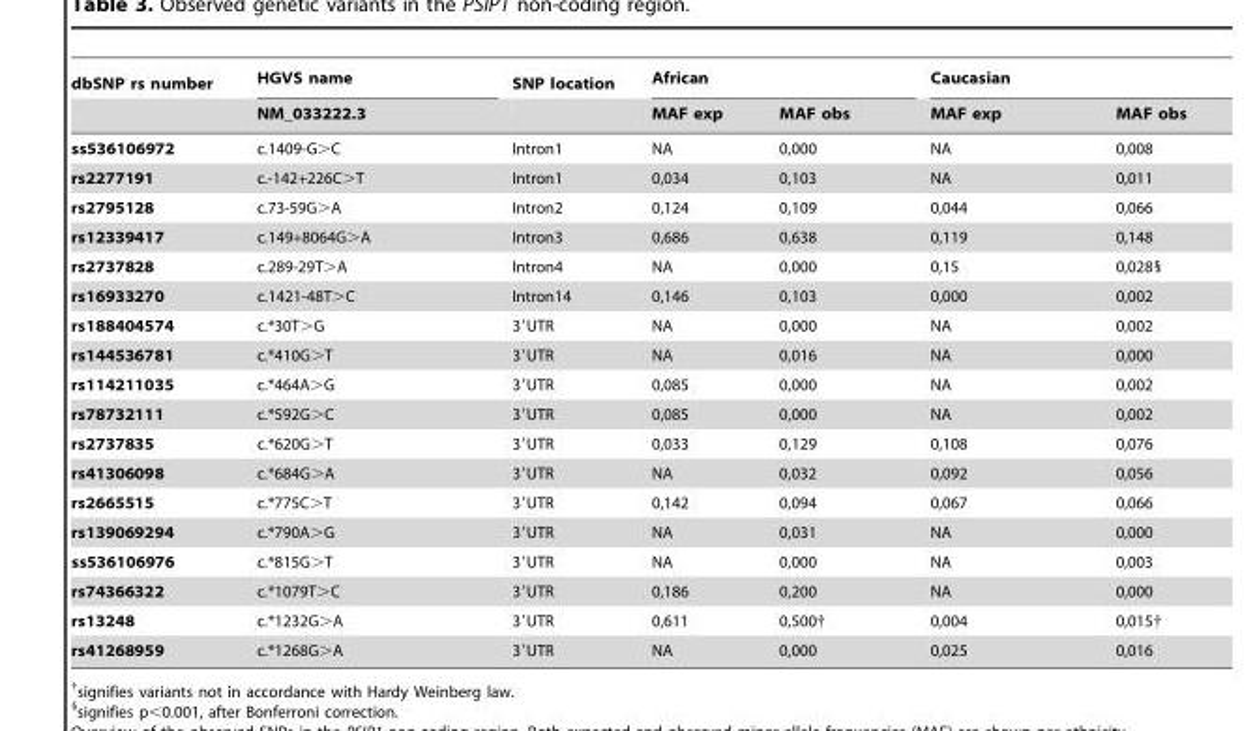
<table><thead><tr><td rowspan="2">dbSNP rs number</td><td rowspan="2">HGVS name NM_033222.3</td><td rowspan="2">SNP location</td><td colspan="2">African</td><td colspan="2">Caucasian</td></tr><tr><td>MAF exp</td><td>MAF obs</td><td>MAF exp</td><td>MAF obs</td></tr></thead><tbody><tr><td>ss536106972</td><td>c.1409-G&gt;C</td><td>Intron1</td><td>NA</td><td>0,000</td><td>NA</td><td>0,008</td></tr><tr><td>rs2277191</td><td>c.-142+226C&gt;T</td><td>Intron1</td><td>0,034</td><td>0,103</td><td>NA</td><td>0,011</td></tr><tr><td>rs2795128</td><td>c.73-59G&gt;A</td><td>Intron2</td><td>0,124</td><td>0,109</td><td>0,044</td><td>0,066</td></tr><tr><td>rs12339417</td><td>c.149+8064G&gt;A</td><td>Intron3</td><td>0,686</td><td>0,638</td><td>0,119</td><td>0,148</td></tr><tr><td>rs2737828</td><td>c.289-29T&gt;A</td><td>Intron4</td><td>NA</td><td>0,000</td><td>0,15</td><td>0,028§</td></tr><tr><td>rs16933270</td><td>c.1421-48T&gt;C</td><td>Intron14</td><td>0,146</td><td>0,103</td><td>0,000</td><td>0,002</td></tr><tr><td>rs188404574</td><td>c.*30T&gt;G</td><td>3′UTR</td><td>NA</td><td>0,000</td><td>NA</td><td>0,002</td></tr><tr><td>rs144536781</td><td>c.*410G&gt;T</td><td>3′UTR</td><td>NA</td><td>0,016</td><td>NA</td><td>0,000</td></tr><tr><td>rs114211035</td><td>c.*464A&gt;G</td><td>3′UTR</td><td>0,085</td><td>0,000</td><td>NA</td><td>0,002</td></tr><tr><td>rs78732111</td><td>c.*592G&gt;C</td><td>3′UTR</td><td>0,085</td><td>0,000</td><td>NA</td><td>0,002</td></tr><tr><td>rs2737835</td><td>c.*620G&gt;T</td><td>3′UTR</td><td>0,033</td><td>0,129</td><td>0,108</td><td>0,076</td></tr><tr><td>rs41306098</td><td>c.*684G&gt;A</td><td>3′UTR</td><td>NA</td><td>0,032</td><td>0,092</td><td>0,056</td></tr><tr><td>rs2665515</td><td>c.*775C&gt;T</td><td>3′UTR</td><td>0,142</td><td>0,094</td><td>0,067</td><td>0,066</td></tr><tr><td>rs139069294</td><td>c.*790A&gt;G</td><td>3′UTR</td><td>NA</td><td>0,031</td><td>NA</td><td>0,000</td></tr><tr><td>ss536106976</td><td>c.*815G&gt;T</td><td>3′UTR</td><td>NA</td><td>0,000</td><td>NA</td><td>0,003</td></tr><tr><td>rs74366322</td><td>c.*1079T&gt;C</td><td>3′UTR</td><td>0,186</td><td>0,200</td><td>NA</td><td>0,000</td></tr><tr><td>rs13248</td><td>c.*1232G&gt;A</td><td>3′UTR</td><td>0,611</td><td>0,500†</td><td>0,004</td><td>0,015†</td></tr><tr><td>rs41268959</td><td>c.*1268G&gt;A</td><td>3′UTR</td><td>NA</td><td>0,000</td><td>0,025</td><td>0,016</td></tr></tbody></table>